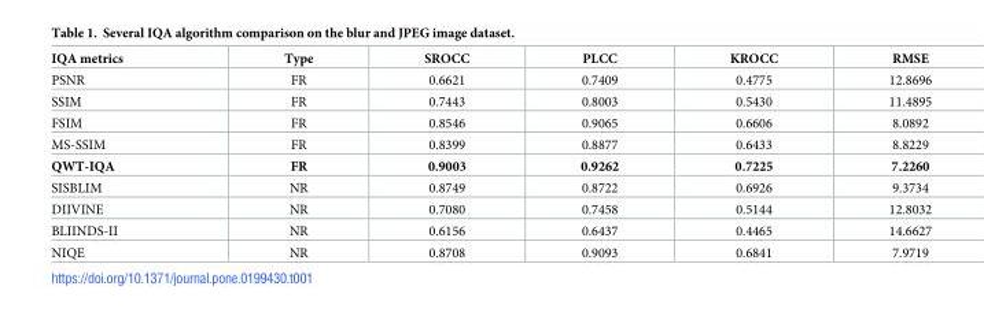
<table><thead><tr><td>IQA metrics</td><td>Type</td><td>SROCC</td><td>PLCC</td><td>KROCC</td><td>RMSE</td></tr></thead><tbody><tr><td>PSNR</td><td>FR</td><td>0.6621</td><td>0.7409</td><td>0.4775</td><td>12.8696</td></tr><tr><td>SSIM</td><td>FR</td><td>0.7443</td><td>0.8003</td><td>0.5430</td><td>11.4895</td></tr><tr><td>FSIM</td><td>FR</td><td>0.8546</td><td>0.9065</td><td>0.6606</td><td>8.0892</td></tr><tr><td>MS-SSIM</td><td>FR</td><td>0.8399</td><td>0.8877</td><td>0.6433</td><td>8.8229</td></tr><tr><td>QWT-IQA</td><td>FR</td><td>0.9003</td><td>0.9262</td><td>0.7225</td><td>7.2260</td></tr><tr><td>SISBLIM</td><td>NR</td><td>0.8749</td><td>0.8722</td><td>0.6926</td><td>9.3734</td></tr><tr><td>DIIVINE</td><td>NR</td><td>0.7080</td><td>0.7458</td><td>0.5144</td><td>12.8032</td></tr><tr><td>BLIINDS-II</td><td>NR</td><td>0.6156</td><td>0.6437</td><td>0.4465</td><td>14.6627</td></tr><tr><td>NIQE</td><td>NR</td><td>0.8708</td><td>0.9093</td><td>0.6841</td><td>7.9719</td></tr></tbody></table>